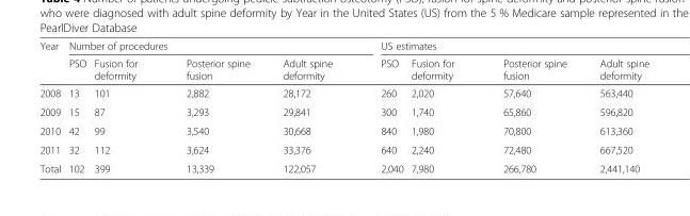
<table><thead><tr><td rowspan="2">Year</td><td colspan="4">Number of procedures</td><td colspan="4">US estimates</td></tr><tr><td>PSO</td><td>Fusion for deformity</td><td>Posterior spine fusion</td><td>Adult spine deformity</td><td>PSO</td><td>Fusion for deformity</td><td>Posterior spine fusion</td><td>Adult spine deformity</td></tr></thead><tbody><tr><td>2008</td><td>13</td><td>101</td><td>2,882</td><td>28,172</td><td>260</td><td>2,020</td><td>57,640</td><td>563,440</td></tr><tr><td>2009</td><td>15</td><td>87</td><td>3,293</td><td>29,841</td><td>300</td><td>1,740</td><td>65,860</td><td>596,820</td></tr><tr><td>2010</td><td>42</td><td>99</td><td>3,540</td><td>30,668</td><td>840</td><td>1,980</td><td>70,800</td><td>613,360</td></tr><tr><td>2011</td><td>32</td><td>112</td><td>3,624</td><td>33,376</td><td>640</td><td>2,240</td><td>72,480</td><td>667,520</td></tr><tr><td>Total</td><td>102</td><td>399</td><td>13,339</td><td>122,057</td><td>2,040</td><td>7,980</td><td>266,780</td><td>2,441,140</td></tr></tbody></table>